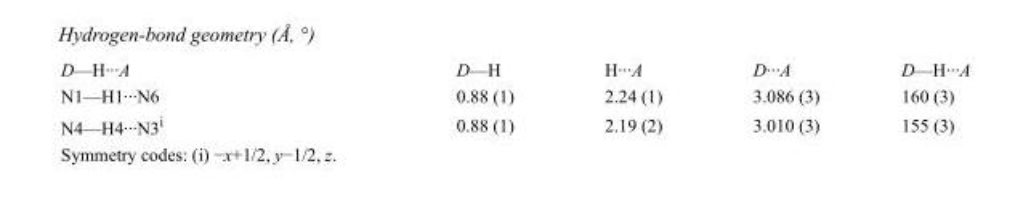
<table><tbody><tr><td>D—H···A</td><td>D—H</td><td>H···A</td><td>D···A</td><td>D—H···A</td></tr><tr><td>N1—H1···N6</td><td>0.88 (1)</td><td>2.24 (1)</td><td>3.086 (3)</td><td>160 (3)</td></tr><tr><td>N4—H4···N3<sup>i</sup></td><td>0.88 (1)</td><td>2.19 (2)</td><td>3.010 (3)</td><td>155 (3)</td></tr></tbody></table>